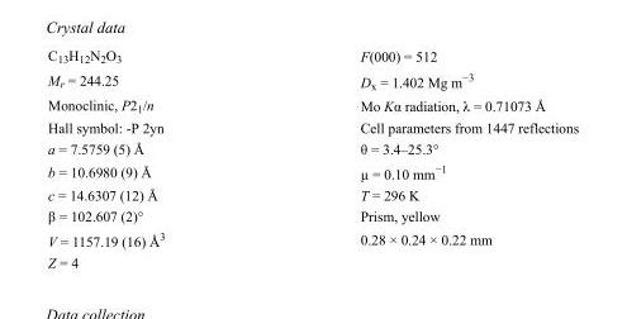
<table><tbody><tr><td>C<sub>13</sub>H<sub>12</sub>N<sub>2</sub>O<sub>3</sub></td><td>F(000) = 512</td></tr><tr><td>M<sub>r</sub> = 244.25</td><td>D<sub>x</sub> = 1.402 Mg m<sup>−3</sup></td></tr><tr><td>Monoclinic, P2<sub>1</sub>/n</td><td>Mo Kα radiation, λ = 0.71073 Å</td></tr><tr><td>Hall symbol: -P 2yn</td><td>Cell parameters from 1447 reflections</td></tr><tr><td>a = 7.5759 (5) Å</td><td>θ = 3.4–25.3°</td></tr><tr><td>b = 10.6980 (9) Å</td><td>µ = 0.10 mm<sup>−1</sup></td></tr><tr><td>c = 14.6307 (12) Å</td><td>T = 296 K</td></tr><tr><td>β = 102.607 (2)°</td><td>Prism, yellow</td></tr><tr><td>V = 1157.19 (16) Å<sup>3</sup></td><td>0.28 × 0.24 × 0.22 mm</td></tr><tr><td>Z = 4</td><td></td></tr></tbody></table>